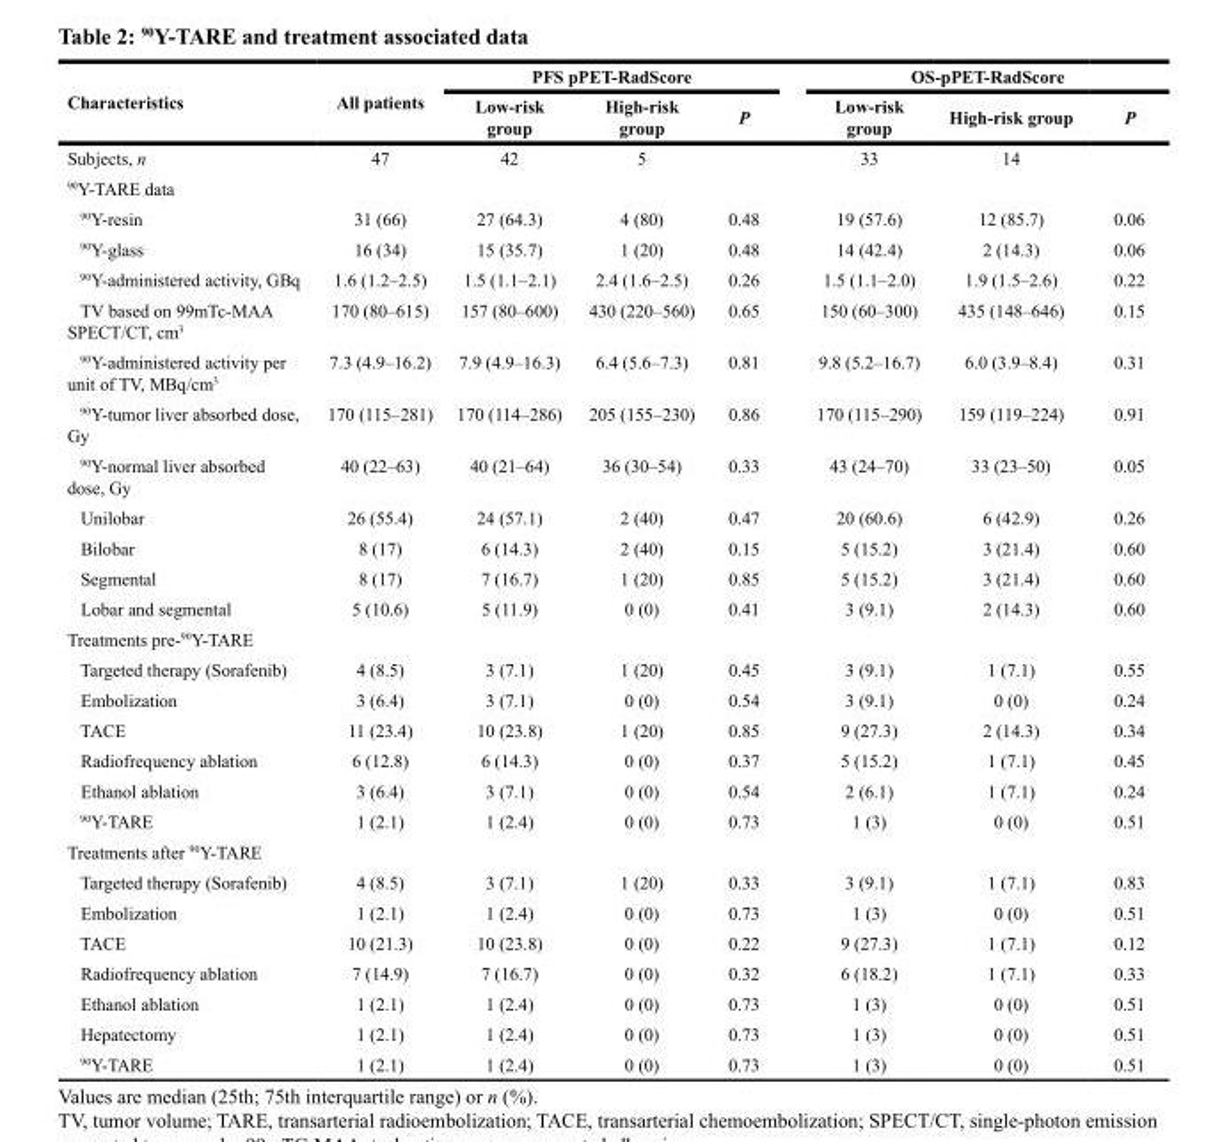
<table><thead><tr><td rowspan="2">Characteristics</td><td rowspan="2">All patients</td><td colspan="3">PFS pPET-RadScore</td><td colspan="3">OS-pPET-RadScore</td></tr><tr><td>Low-risk group</td><td>High-risk group</td><td>P</td><td>Low-risk group</td><td>High-risk group</td><td>P</td></tr></thead><tbody><tr><td>Subjects, n</td><td>47</td><td>42</td><td>5</td><td></td><td>33</td><td>14</td><td></td></tr><tr><td colspan="8"><sup>90</sup>Y-TARE data</td></tr><tr><td><sup>90</sup>Y-resin</td><td>31 (66)</td><td>27 (64.3)</td><td>4 (80)</td><td>0.48</td><td>19 (57.6)</td><td>12 (85.7)</td><td>0.06</td></tr><tr><td><sup>90</sup>Y-glass</td><td>16 (34)</td><td>15 (35.7)</td><td>1 (20)</td><td>0.48</td><td>14 (42.4)</td><td>2 (14.3)</td><td>0.06</td></tr><tr><td><sup>90</sup>Y-administered activity, GBq</td><td>1.6 (1.2–2.5)</td><td>1.5 (1.1–2.1)</td><td>2.4 (1.6–2.5)</td><td>0.26</td><td>1.5 (1.1–2.0)</td><td>1.9 (1.5–2.6)</td><td>0.22</td></tr><tr><td>TV based on 99mTc-MAA SPECT/CT, cm<sup>3</sup></td><td>170 (80–615)</td><td>157 (80–600)</td><td>430 (220–560)</td><td>0.65</td><td>150 (60–300)</td><td>435 (148–646)</td><td>0.15</td></tr><tr><td><sup>90</sup>Y-administered activity per unit of TV, MBq/cm<sup>3</sup></td><td>7.3 (4.9–16.2)</td><td>7.9 (4.9–16.3)</td><td>6.4 (5.6–7.3)</td><td>0.81</td><td>9.8 (5.2–16.7)</td><td>6.0 (3.9–8.4)</td><td>0.31</td></tr><tr><td><sup>90</sup>Y-tumor liver absorbed dose, Gy</td><td>170 (115–281)</td><td>170 (114–286)</td><td>205 (155–230)</td><td>0.86</td><td>170 (115–290)</td><td>159 (119–224)</td><td>0.91</td></tr><tr><td><sup>90</sup>Y-normal liver absorbed dose, Gy</td><td>40 (22–63)</td><td>40 (21–64)</td><td>36 (30–54)</td><td>0.33</td><td>43 (24–70)</td><td>33 (23–50)</td><td>0.05</td></tr><tr><td>Unilobar</td><td>26 (55.4)</td><td>24 (57.1)</td><td>2 (40)</td><td>0.47</td><td>20 (60.6)</td><td>6 (42.9)</td><td>0.26</td></tr><tr><td>Bilobar</td><td>8 (17)</td><td>6 (14.3)</td><td>2 (40)</td><td>0.15</td><td>5 (15.2)</td><td>3 (21.4)</td><td>0.60</td></tr><tr><td>Segmental</td><td>8 (17)</td><td>7 (16.7)</td><td>1 (20)</td><td>0.85</td><td>5 (15.2)</td><td>3 (21.4)</td><td>0.60</td></tr><tr><td>Lobar and segmental</td><td>5 (10.6)</td><td>5 (11.9)</td><td>0 (0)</td><td>0.41</td><td>3 (9.1)</td><td>2 (14.3)</td><td>0.60</td></tr><tr><td colspan="8">Treatments pre-<sup>90</sup>Y-TARE</td></tr><tr><td>Targeted therapy (Sorafenib)</td><td>4 (8.5)</td><td>3 (7.1)</td><td>1 (20)</td><td>0.45</td><td>3 (9.1)</td><td>1 (7.1)</td><td>0.55</td></tr><tr><td>Embolization</td><td>3 (6.4)</td><td>3 (7.1)</td><td>0 (0)</td><td>0.54</td><td>3 (9.1)</td><td>0 (0)</td><td>0.24</td></tr><tr><td>TACE</td><td>11 (23.4)</td><td>10 (23.8)</td><td>1 (20)</td><td>0.85</td><td>9 (27.3)</td><td>2 (14.3)</td><td>0.34</td></tr><tr><td>Radiofrequency ablation</td><td>6 (12.8)</td><td>6 (14.3)</td><td>0 (0)</td><td>0.37</td><td>5 (15.2)</td><td>1 (7.1)</td><td>0.45</td></tr><tr><td>Ethanol ablation</td><td>3 (6.4)</td><td>3 (7.1)</td><td>0 (0)</td><td>0.54</td><td>2 (6.1)</td><td>1 (7.1)</td><td>0.24</td></tr><tr><td><sup>90</sup>Y-TARE</td><td>1 (2.1)</td><td>1 (2.4)</td><td>0 (0)</td><td>0.73</td><td>1 (3)</td><td>0 (0)</td><td>0.51</td></tr><tr><td colspan="8">Treatments after <sup>90</sup>Y-TARE</td></tr><tr><td>Targeted therapy (Sorafenib)</td><td>4 (8.5)</td><td>3 (7.1)</td><td>1 (20)</td><td>0.33</td><td>3 (9.1)</td><td>1 (7.1)</td><td>0.83</td></tr><tr><td>Embolization</td><td>1 (2.1)</td><td>1 (2.4)</td><td>0 (0)</td><td>0.73</td><td>1 (3)</td><td>0 (0)</td><td>0.51</td></tr><tr><td>TACE</td><td>10 (21.3)</td><td>10 (23.8)</td><td>0 (0)</td><td>0.22</td><td>9 (27.3)</td><td>1 (7.1)</td><td>0.12</td></tr><tr><td>Radiofrequency ablation</td><td>7 (14.9)</td><td>7 (16.7)</td><td>0 (0)</td><td>0.32</td><td>6 (18.2)</td><td>1 (7.1)</td><td>0.33</td></tr><tr><td>Ethanol ablation</td><td>1 (2.1)</td><td>1 (2.4)</td><td>0 (0)</td><td>0.73</td><td>1 (3)</td><td>0 (0)</td><td>0.51</td></tr><tr><td>Hepatectomy</td><td>1 (2.1)</td><td>1 (2.4)</td><td>0 (0)</td><td>0.73</td><td>1 (3)</td><td>0 (0)</td><td>0.51</td></tr><tr><td><sup>90</sup>Y-TARE</td><td>1 (2.1)</td><td>1 (2.4)</td><td>0 (0)</td><td>0.73</td><td>1 (3)</td><td>0 (0)</td><td>0.51</td></tr></tbody></table>